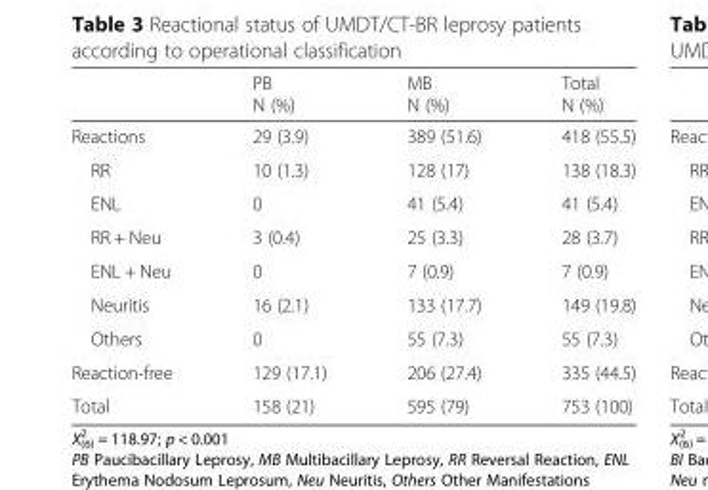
<table><thead><tr><td></td><td>PB N (%)</td><td>MB N (%)</td><td>Total N (%)</td></tr></thead><tbody><tr><td>Reactions</td><td>29 (3.9)</td><td>389 (51.6)</td><td>418 (55.5)</td></tr><tr><td>RR</td><td>10 (1.3)</td><td>128 (17)</td><td>138 (18.3)</td></tr><tr><td>ENL</td><td>0</td><td>41 (5.4)</td><td>41 (5.4)</td></tr><tr><td>RR + Neu</td><td>3 (0.4)</td><td>25 (3.3)</td><td>28 (3.7)</td></tr><tr><td>ENL + Neu</td><td>0</td><td>7 (0.9)</td><td>7 (0.9)</td></tr><tr><td>Neuritis</td><td>16 (2.1)</td><td>133 (17.7)</td><td>149 (19.8)</td></tr><tr><td>Others</td><td>0</td><td>55 (7.3)</td><td>55 (7.3)</td></tr><tr><td>Reaction-free</td><td>129 (17.1)</td><td>206 (27.4)</td><td>335 (44.5)</td></tr><tr><td>Total</td><td>158 (21)</td><td>595 (79)</td><td>753 (100)</td></tr></tbody></table>